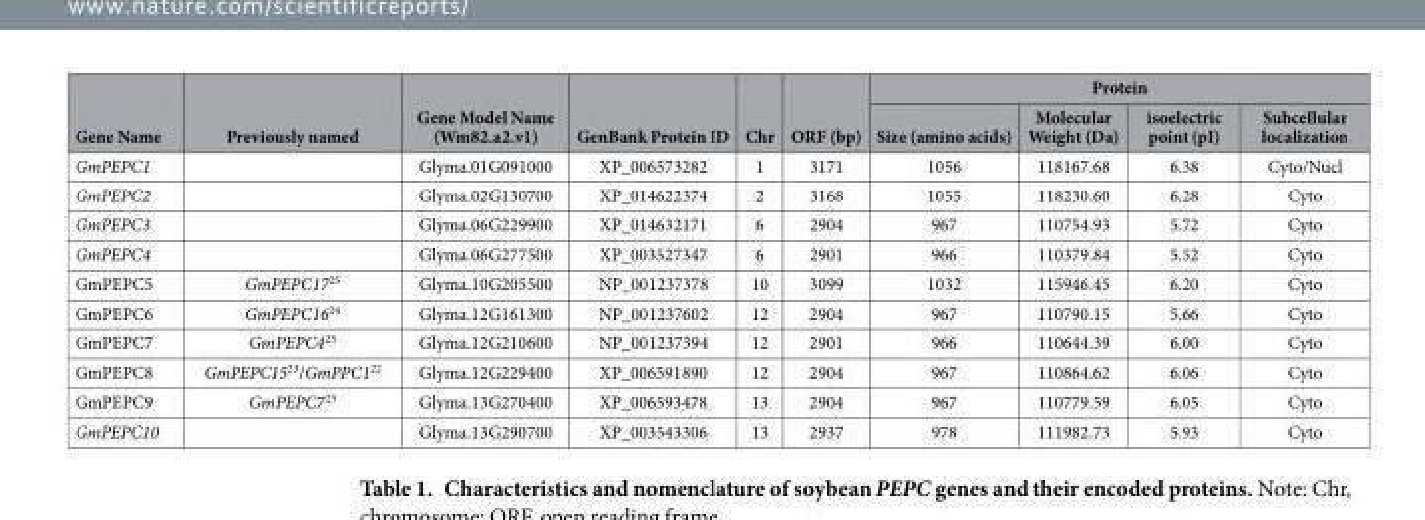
<table><thead><tr><td rowspan="2">Gene Name</td><td rowspan="2">Previously named</td><td rowspan="2">Gene Model Name (Wm82.a2.v1)</td><td rowspan="2">GenBank Protein ID</td><td rowspan="2">Chr</td><td rowspan="2">ORF (bp)</td><td colspan="4">Protein</td></tr><tr><td>Size (amino acids)</td><td>Molecular Weight (Da)</td><td>isoelectric point (pI)</td><td>Subcellular localization</td></tr></thead><tbody><tr><td>GmPEPC1</td><td></td><td>Glyma.01G091000</td><td>XP_006573282</td><td>1</td><td>3171</td><td>1056</td><td>118167.68</td><td>6.38</td><td>Cyto/Nucl</td></tr><tr><td>GmPEPC2</td><td></td><td>Glyma.02G130700</td><td>XP_014622374</td><td>2</td><td>3168</td><td>1055</td><td>118230.60</td><td>6.28</td><td>Cyto</td></tr><tr><td>GmPEPC3</td><td></td><td>Glyma.06G229900</td><td>XP_014632171</td><td>6</td><td>2904</td><td>967</td><td>110754.93</td><td>5.72</td><td>Cyto</td></tr><tr><td>GmPEPC4</td><td></td><td>Glyma.06G277500</td><td>XP_003527347</td><td>6</td><td>2901</td><td>966</td><td>110379.84</td><td>5.52</td><td>Cyto</td></tr><tr><td>GmPEPC5</td><td>GmPEPC17<sup>25</sup></td><td>Glyma.10G205500</td><td>NP_001237378</td><td>10</td><td>3099</td><td>1032</td><td>115946.45</td><td>6.20</td><td>Cyto</td></tr><tr><td>GmPEPC6</td><td>GmPEPC16<sup>24</sup></td><td>Glyma.12G161300</td><td>NP_001237602</td><td>12</td><td>2904</td><td>967</td><td>110790.15</td><td>5.66</td><td>Cyto</td></tr><tr><td>GmPEPC7</td><td>GmPEPC4<sup>23</sup></td><td>Glyma.12G210600</td><td>NP_001237394</td><td>12</td><td>2901</td><td>966</td><td>110644.39</td><td>6.00</td><td>Cyto</td></tr><tr><td>GmPEPC8</td><td>GmPEPC15<sup>23</sup>/GmPPC1<sup>22</sup></td><td>Glyma.12G229400</td><td>XP_006591890</td><td>12</td><td>2904</td><td>967</td><td>110864.62</td><td>6.06</td><td>Cyto</td></tr><tr><td>GmPEPC9</td><td>GmPEPC7<sup>23</sup></td><td>Glyma.13G270400</td><td>XP_006593478</td><td>13</td><td>2904</td><td>967</td><td>110779.59</td><td>6.05</td><td>Cyto</td></tr><tr><td>GmPEPC10</td><td></td><td>Glyma.13G290700</td><td>XP_003543306</td><td>13</td><td>2937</td><td>978</td><td>111982.73</td><td>5.93</td><td>Cyto</td></tr></tbody></table>